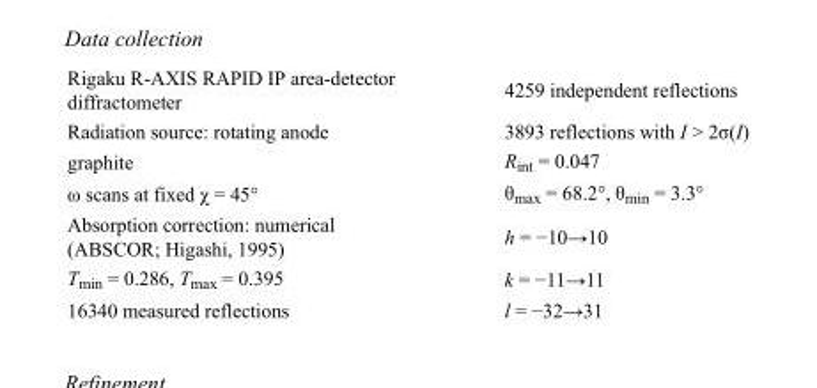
<table><tbody><tr><td>Rigaku R-AXIS RAPID IP area-detector diffractometer</td><td>4259 independent reflections</td></tr><tr><td>Radiation source: rotating anode</td><td>3893 reflections with I &gt; 2σ(I)</td></tr><tr><td>graphite</td><td>R<sub>int</sub> = 0.047</td></tr><tr><td>ω scans at fixed χ = 45°</td><td>θ<sub>max</sub> = 68.2°, θ<sub>min</sub> = 3.3°</td></tr><tr><td>Absorption correction: numerical (ABSCOR; Higashi, 1995)</td><td>h = −10→10</td></tr><tr><td>T<sub>min</sub> = 0.286, T<sub>max</sub> = 0.395</td><td>k = −11→11</td></tr><tr><td>16340 measured reflections</td><td>l = −32→31</td></tr></tbody></table>